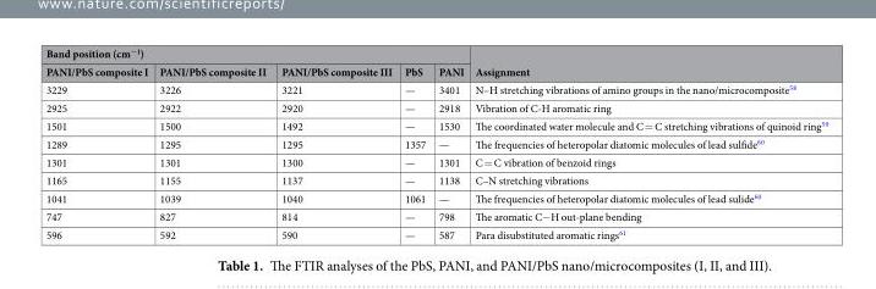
<table><thead><tr><td colspan="5">Band position (cm<sup>−1</sup>)</td><td rowspan="2">Assignment</td></tr><tr><td>PANI/PbS composite I</td><td>PANI/PbS composite II</td><td>PANI/PbS composite III</td><td>PbS</td><td>PANI</td></tr></thead><tbody><tr><td>3229</td><td>3226</td><td>3221</td><td>—</td><td>3401</td><td>N–H stretching vibrations of amino groups in the nano/microcomposite<sup>58</sup></td></tr><tr><td>2925</td><td>2922</td><td>2920</td><td>—</td><td>2918</td><td>Vibration of C-H aromatic ring</td></tr><tr><td>1501</td><td>1500</td><td>1492</td><td>—</td><td>1530</td><td>The coordinated water molecule and C = C stretching vibrations of quinoid ring<sup>59</sup></td></tr><tr><td>1289</td><td>1295</td><td>1295</td><td>1357</td><td>—</td><td>The frequencies of heteropolar diatomic molecules of lead sulfide<sup>60</sup></td></tr><tr><td>1301</td><td>1301</td><td>1300</td><td>—</td><td>1301</td><td>C = C vibration of benzoid rings</td></tr><tr><td>1165</td><td>1155</td><td>1137</td><td>—</td><td>1138</td><td>C–N stretching vibrations</td></tr><tr><td>1041</td><td>1039</td><td>1040</td><td>1061</td><td>—</td><td>The frequencies of heteropolar diatomic molecules of lead sulide<sup>60</sup></td></tr><tr><td>747</td><td>827</td><td>814</td><td>—</td><td>798</td><td>The aromatic C−H out-plane bending</td></tr><tr><td>596</td><td>592</td><td>590</td><td>—</td><td>587</td><td>Para disubstituted aromatic rings<sup>61</sup></td></tr></tbody></table>